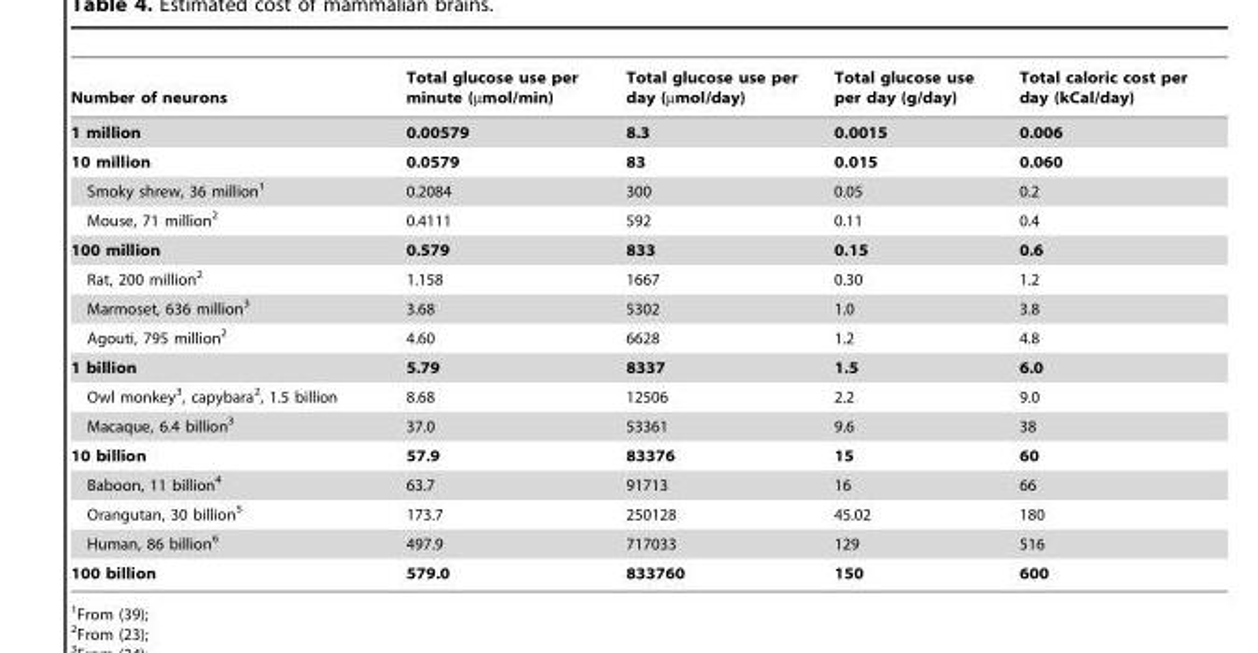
<table><thead><tr><td>Number of neurons</td><td>Total glucose use per minute (µmol/min)</td><td>Total glucose use per day (µmol/day)</td><td>Total glucose use per day (g/day)</td><td>Total caloric cost per day (kCal/day)</td></tr></thead><tbody><tr><td>1 million</td><td>0.00579</td><td>8.3</td><td>0.0015</td><td>0.006</td></tr><tr><td>10 million</td><td>0.0579</td><td>83</td><td>0.015</td><td>0.060</td></tr><tr><td>Smoky shrew, 36 million<sup>1</sup></td><td>0.2084</td><td>300</td><td>0.05</td><td>0.2</td></tr><tr><td>Mouse, 71 million<sup>2</sup></td><td>0.4111</td><td>592</td><td>0.11</td><td>0.4</td></tr><tr><td>100 million</td><td>0.579</td><td>833</td><td>0.15</td><td>0.6</td></tr><tr><td>Rat, 200 million<sup>2</sup></td><td>1.158</td><td>1667</td><td>0.30</td><td>1.2</td></tr><tr><td>Marmoset, 636 million<sup>3</sup></td><td>3.68</td><td>5302</td><td>1.0</td><td>3.8</td></tr><tr><td>Agouti, 795 million<sup>2</sup></td><td>4.60</td><td>6628</td><td>1.2</td><td>4.8</td></tr><tr><td>1 billion</td><td>5.79</td><td>8337</td><td>1.5</td><td>6.0</td></tr><tr><td>Owl monkey<sup>3</sup>, capybara<sup>2</sup>, 1.5 billion</td><td>8.68</td><td>12506</td><td>2.2</td><td>9.0</td></tr><tr><td>Macaque, 6.4 billion<sup>3</sup></td><td>37.0</td><td>53361</td><td>9.6</td><td>38</td></tr><tr><td>10 billion</td><td>57.9</td><td>83376</td><td>15</td><td>60</td></tr><tr><td>Baboon, 11 billion<sup>4</sup></td><td>63.7</td><td>91713</td><td>16</td><td>66</td></tr><tr><td>Orangutan, 30 billion<sup>5</sup></td><td>173.7</td><td>250128</td><td>45.02</td><td>180</td></tr><tr><td>Human, 86 billion<sup>6</sup></td><td>497.9</td><td>717033</td><td>129</td><td>516</td></tr><tr><td>100 billion</td><td>579.0</td><td>833760</td><td>150</td><td>600</td></tr></tbody></table>